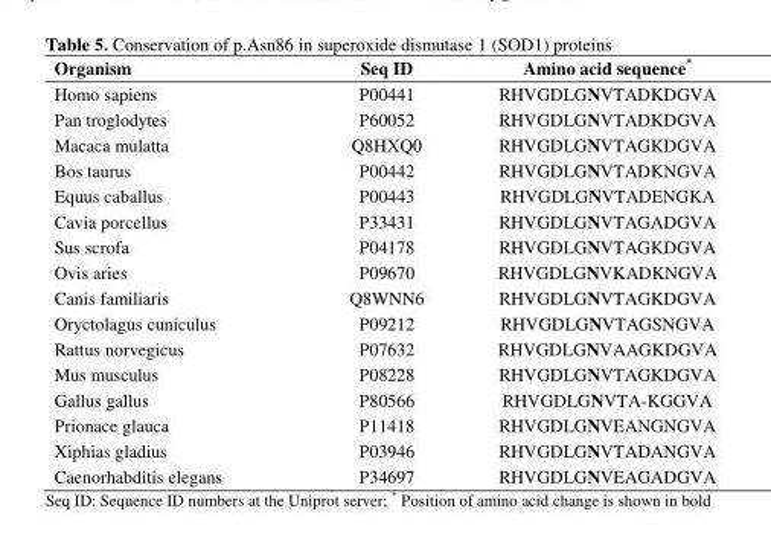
<table><thead><tr><td>Organism</td><td>Seq ID</td><td>Amino acid sequence*</td></tr></thead><tbody><tr><td>Homo sapiens</td><td>P00441</td><td>RHVGDLGNVTADKDGVA</td></tr><tr><td>Pan troglodytes</td><td>P60052</td><td>RHVGDLGNVTADKDGVA</td></tr><tr><td>Macaca mulatta</td><td>Q8HXQ0</td><td>RHVGDLGNVTAGKDGVA</td></tr><tr><td>Bos taurus</td><td>P00442</td><td>RHVGDLGNVTADKNGVA</td></tr><tr><td>Equus caballus</td><td>P00443</td><td>RHVGDLGNVTADENGKA</td></tr><tr><td>Cavia porcellus</td><td>P33431</td><td>RHVGDLGNVTAGADGVA</td></tr><tr><td>Sus scrofa</td><td>P04178</td><td>RHVGDLGNVTAGKDGVA</td></tr><tr><td>Ovis aries</td><td>P09670</td><td>RHVGDLGNVKADKNGVA</td></tr><tr><td>Canis familiaris</td><td>Q8WNN6</td><td>RHVGDLGNVTAGKDGVA</td></tr><tr><td>Oryctolagus cuniculus</td><td>P09212</td><td>RHVGDLGNVTAGSNGVA</td></tr><tr><td>Rattus norvegicus</td><td>P07632</td><td>RHVGDLGNVAAGKDGVA</td></tr><tr><td>Mus musculus</td><td>P08228</td><td>RHVGDLGNVTAGKDGVA</td></tr><tr><td>Gallus gallus</td><td>P80566</td><td>RHVGDLGNVTA-KGGVA</td></tr><tr><td>Prionace glauca</td><td>P11418</td><td>RHVGDLGNVEANGNGVA</td></tr><tr><td>Xiphias gladius</td><td>P03946</td><td>RHVGDLGNVTADANGVA</td></tr><tr><td>Caenorhabditis elegans</td><td>P34697</td><td>RHVGDLGNVEAGADGVA</td></tr></tbody></table>